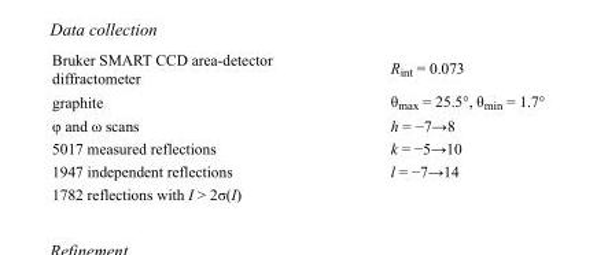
<table><tbody><tr><td>Bruker SMART CCD area-detector diffractometer</td><td>R<sub>int</sub> = 0.073</td></tr><tr><td>graphite</td><td>θ<sub>max</sub> = 25.5°, θ<sub>min</sub> = 1.7°</td></tr><tr><td>φ and ω scans</td><td>h = −7→8</td></tr><tr><td>5017 measured reflections</td><td>k = −5→10</td></tr><tr><td>1947 independent reflections</td><td>l = −7→14</td></tr><tr><td>1782 reflections with I &gt; 2σ(I)</td><td></td></tr></tbody></table>